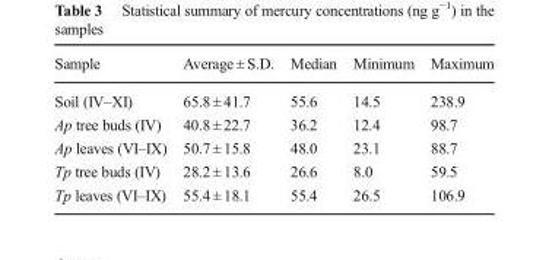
<table><thead><tr><td>Sample</td><td>Average ± S.D.</td><td>Median</td><td>Minimum</td><td>Maximum</td></tr></thead><tbody><tr><td>Soil (IV–XI)</td><td>65.8 ± 41.7</td><td>55.6</td><td>14.5</td><td>238.9</td></tr><tr><td>Ap tree buds (IV)</td><td>40.8 ± 22.7</td><td>36.2</td><td>12.4</td><td>98.7</td></tr><tr><td>Ap leaves (VI–IX)</td><td>50.7 ± 15.8</td><td>48.0</td><td>23.1</td><td>88.7</td></tr><tr><td>Tp tree buds (IV)</td><td>28.2 ± 13.6</td><td>26.6</td><td>8.0</td><td>59.5</td></tr><tr><td>Tp leaves (VI–IX)</td><td>55.4 ± 18.1</td><td>55.4</td><td>26.5</td><td>106.9</td></tr></tbody></table>